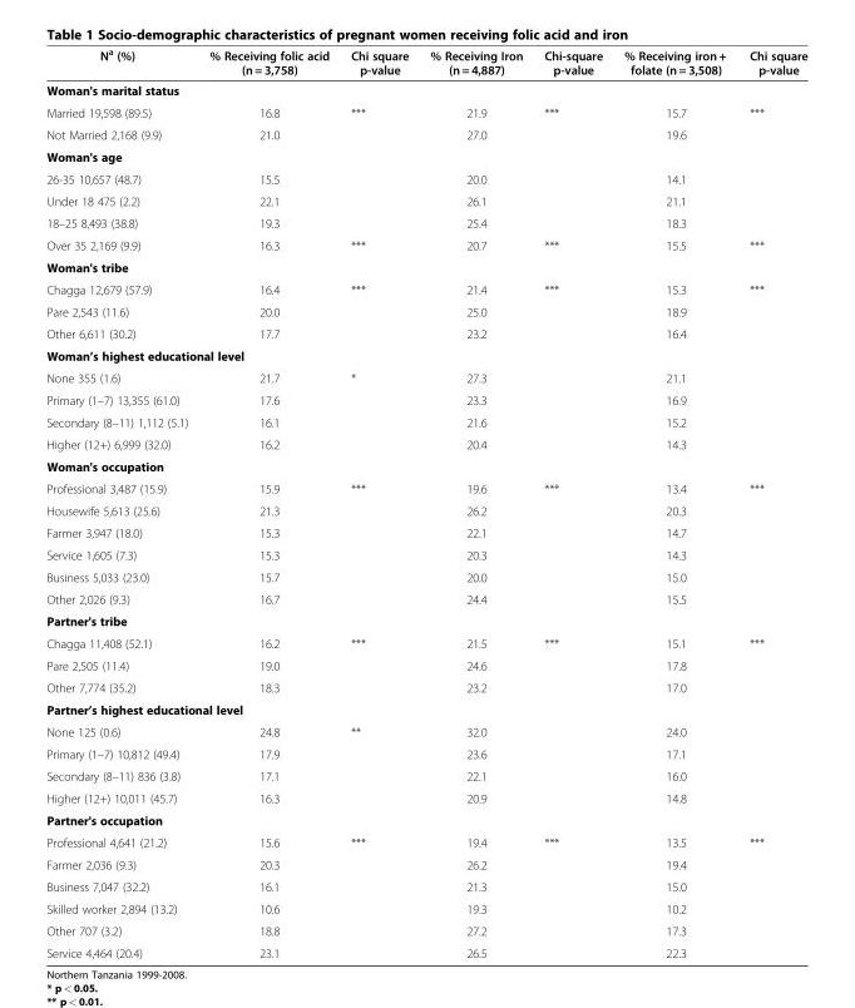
<table><thead><tr><td>N<sup>a</sup> (%)</td><td>% Receiving folic acid (n = 3,758)</td><td>Chi square p-value</td><td>% Receiving Iron (n = 4,887)</td><td>Chi-square p-value</td><td>% Receiving iron + folate (n = 3,508)</td><td>Chi square p-value</td></tr></thead><tbody><tr><td colspan="7">Woman&#x27;s marital status</td></tr><tr><td>Married 19,598 (89.5)</td><td>16.8</td><td>***</td><td>21.9</td><td>***</td><td>15.7</td><td>***</td></tr><tr><td>Not Married 2,168 (9.9)</td><td>21.0</td><td></td><td>27.0</td><td></td><td>19.6</td><td></td></tr><tr><td colspan="7">Woman&#x27;s age</td></tr><tr><td>26-35 10,657 (48.7)</td><td>15.5</td><td></td><td>20.0</td><td></td><td>14.1</td><td></td></tr><tr><td>Under 18 475 (2.2)</td><td>22.1</td><td></td><td>26.1</td><td></td><td>21.1</td><td></td></tr><tr><td>18–25 8,493 (38.8)</td><td>19.3</td><td></td><td>25.4</td><td></td><td>18.3</td><td></td></tr><tr><td>Over 35 2,169 (9.9)</td><td>16.3</td><td>***</td><td>20.7</td><td>***</td><td>15.5</td><td>***</td></tr><tr><td colspan="7">Woman&#x27;s tribe</td></tr><tr><td>Chagga 12,679 (57.9)</td><td>16.4</td><td>***</td><td>21.4</td><td>***</td><td>15.3</td><td>***</td></tr><tr><td>Pare 2,543 (11.6)</td><td>20.0</td><td></td><td>25.0</td><td></td><td>18.9</td><td></td></tr><tr><td>Other 6,611 (30.2)</td><td>17.7</td><td></td><td>23.2</td><td></td><td>16.4</td><td></td></tr><tr><td colspan="7">Woman’s highest educational level</td></tr><tr><td>None 355 (1.6)</td><td>21.7</td><td>*</td><td>27.3</td><td></td><td>21.1</td><td></td></tr><tr><td>Primary (1–7) 13,355 (61.0)</td><td>17.6</td><td></td><td>23.3</td><td></td><td>16.9</td><td></td></tr><tr><td>Secondary (8–11) 1,112 (5.1)</td><td>16.1</td><td></td><td>21.6</td><td></td><td>15.2</td><td></td></tr><tr><td>Higher (12+) 6,999 (32.0)</td><td>16.2</td><td></td><td>20.4</td><td></td><td>14.3</td><td></td></tr><tr><td colspan="7">Woman&#x27;s occupation</td></tr><tr><td>Professional 3,487 (15.9)</td><td>15.9</td><td>***</td><td>19.6</td><td>***</td><td>13.4</td><td>***</td></tr><tr><td>Housewife 5,613 (25.6)</td><td>21.3</td><td></td><td>26.2</td><td></td><td>20.3</td><td></td></tr><tr><td>Farmer 3,947 (18.0)</td><td>15.3</td><td></td><td>22.1</td><td></td><td>14.7</td><td></td></tr><tr><td>Service 1,605 (7.3)</td><td>15.3</td><td></td><td>20.3</td><td></td><td>14.3</td><td></td></tr><tr><td>Business 5,033 (23.0)</td><td>15.7</td><td></td><td>20.0</td><td></td><td>15.0</td><td></td></tr><tr><td>Other 2,026 (9.3)</td><td>16.7</td><td></td><td>24.4</td><td></td><td>15.5</td><td></td></tr><tr><td colspan="7">Partner&#x27;s tribe</td></tr><tr><td>Chagga 11,408 (52.1)</td><td>16.2</td><td>***</td><td>21.5</td><td>***</td><td>15.1</td><td>***</td></tr><tr><td>Pare 2,505 (11.4)</td><td>19.0</td><td></td><td>24.6</td><td></td><td>17.8</td><td></td></tr><tr><td>Other 7,774 (35.2)</td><td>18.3</td><td></td><td>23.2</td><td></td><td>17.0</td><td></td></tr><tr><td colspan="7">Partner’s highest educational level</td></tr><tr><td>None 125 (0.6)</td><td>24.8</td><td>**</td><td>32.0</td><td></td><td>24.0</td><td></td></tr><tr><td>Primary (1–7) 10,812 (49.4)</td><td>17.9</td><td></td><td>23.6</td><td></td><td>17.1</td><td></td></tr><tr><td>Secondary (8–11) 836 (3.8)</td><td>17.1</td><td></td><td>22.1</td><td></td><td>16.0</td><td></td></tr><tr><td>Higher (12+) 10,011 (45.7)</td><td>16.3</td><td></td><td>20.9</td><td></td><td>14.8</td><td></td></tr><tr><td colspan="7">Partner&#x27;s occupation</td></tr><tr><td>Professional 4,641 (21.2)</td><td>15.6</td><td>***</td><td>19.4</td><td>***</td><td>13.5</td><td>***</td></tr><tr><td>Farmer 2,036 (9.3)</td><td>20.3</td><td></td><td>26.2</td><td></td><td>19.4</td><td></td></tr><tr><td>Business 7,047 (32.2)</td><td>16.1</td><td></td><td>21.3</td><td></td><td>15.0</td><td></td></tr><tr><td>Skilled worker 2,894 (13.2)</td><td>10.6</td><td></td><td>19.3</td><td></td><td>10.2</td><td></td></tr><tr><td>Other 707 (3.2)</td><td>18.8</td><td></td><td>27.2</td><td></td><td>17.3</td><td></td></tr><tr><td>Service 4,464 (20.4)</td><td>23.1</td><td></td><td>26.5</td><td></td><td>22.3</td><td></td></tr></tbody></table>